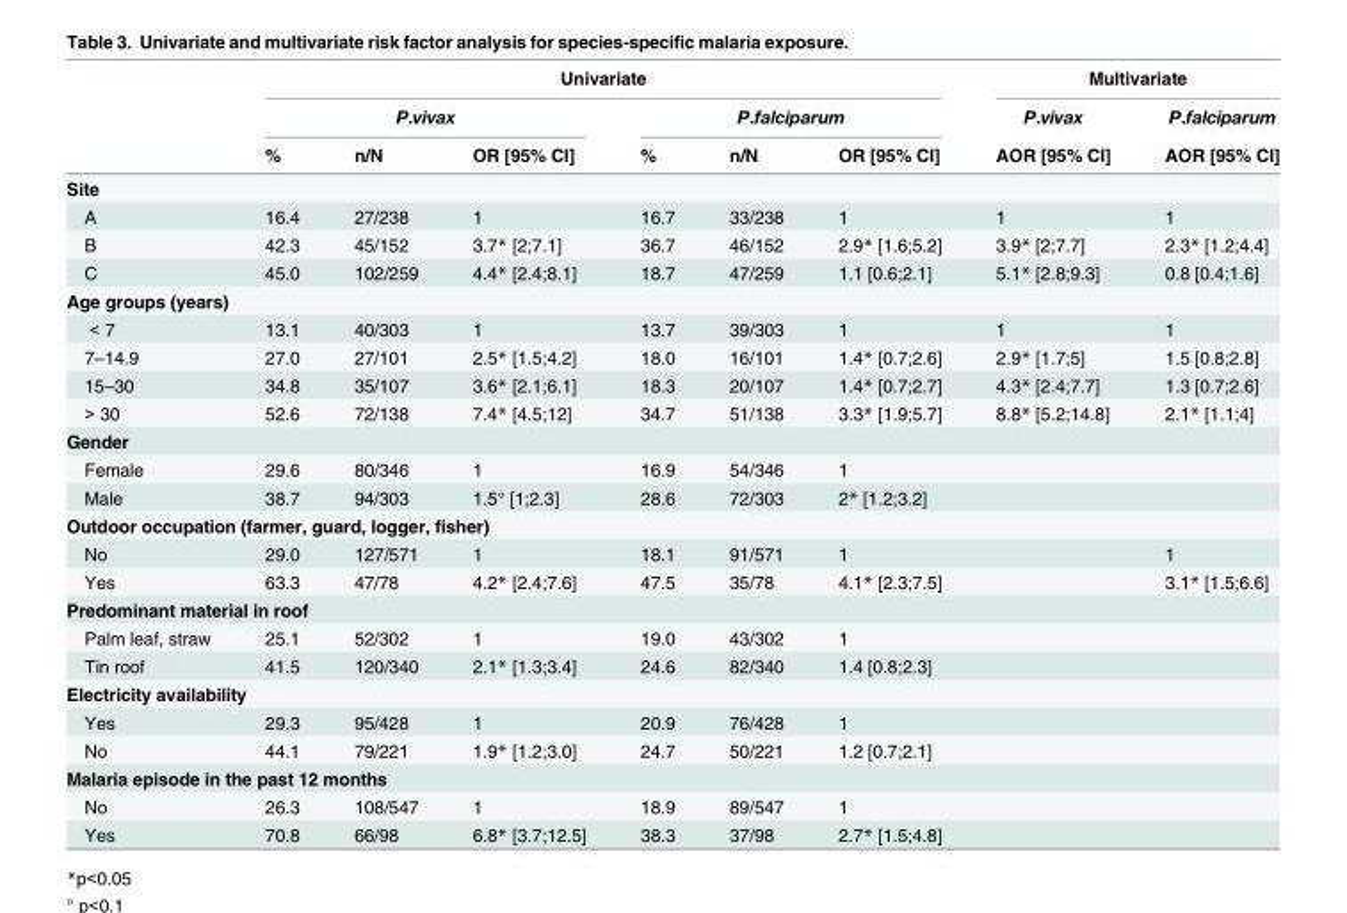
<table><thead><tr><td rowspan="3"></td><td colspan="6">Univariate</td><td colspan="2">Multivariate</td></tr><tr><td colspan="3">P.vivax</td><td colspan="3">P.falciparum</td><td rowspan="2">P.vivax AOR [95% CI]</td><td rowspan="2">P.falciparum AOR [95% CI]</td></tr><tr><td>%</td><td>n/N</td><td>OR [95% CI]</td><td>%</td><td>n/N</td><td>OR [95% CI]</td></tr></thead><tbody><tr><td colspan="9">Site</td></tr><tr><td>A</td><td>16.4</td><td>27/238</td><td>1</td><td>16.7</td><td>33/238</td><td>1</td><td>1</td><td>1</td></tr><tr><td>B</td><td>42.3</td><td>45/152</td><td>3.7* [2;7.1]</td><td>36.7</td><td>46/152</td><td>2.9* [1.6;5.2]</td><td>3.9* [2;7.7]</td><td>2.3* [1.2;4.4]</td></tr><tr><td>C</td><td>45.0</td><td>102/259</td><td>4.4* [2.4;8.1]</td><td>18.7</td><td>47/259</td><td>1.1 [0.6;2.1]</td><td>5.1* [2.8;9.3]</td><td>0.8 [0.4;1.6]</td></tr><tr><td colspan="9">Age groups (years)</td></tr><tr><td>&lt; 7</td><td>13.1</td><td>40/303</td><td>1</td><td>13.7</td><td>39/303</td><td>1</td><td>1</td><td>1</td></tr><tr><td>7–14.9</td><td>27.0</td><td>27/101</td><td>2.5* [1.5;4.2]</td><td>18.0</td><td>16/101</td><td>1.4* [0.7;2.6]</td><td>2.9* [1.7;5]</td><td>1.5 [0.8;2.8]</td></tr><tr><td>15–30</td><td>34.8</td><td>35/107</td><td>3.6* [2.1;6.1]</td><td>18.3</td><td>20/107</td><td>1.4* [0.7;2.7]</td><td>4.3* [2.4;7.7]</td><td>1.3 [0.7;2.6]</td></tr><tr><td>&gt; 30</td><td>52.6</td><td>72/138</td><td>7.4* [4.5;12]</td><td>34.7</td><td>51/138</td><td>3.3* [1.9;5.7]</td><td>8.8* [5.2;14.8]</td><td>2.1* [1.1;4]</td></tr><tr><td colspan="9">Gender</td></tr><tr><td>Female</td><td>29.6</td><td>80/346</td><td>1</td><td>16.9</td><td>54/346</td><td>1</td><td></td><td></td></tr><tr><td>Male</td><td>38.7</td><td>94/303</td><td>1.5° [1;2.3]</td><td>28.6</td><td>72/303</td><td>2* [1.2;3.2]</td><td></td><td></td></tr><tr><td colspan="9">Outdoor occupation (farmer, guard, logger, fisher)</td></tr><tr><td>No</td><td>29.0</td><td>127/571</td><td>1</td><td>18.1</td><td>91/571</td><td>1</td><td></td><td>1</td></tr><tr><td>Yes</td><td>63.3</td><td>47/78</td><td>4.2* [2.4;7.6]</td><td>47.5</td><td>35/78</td><td>4.1* [2.3;7.5]</td><td></td><td>3.1* [1.5;6.6]</td></tr><tr><td colspan="9">Predominant material in roof</td></tr><tr><td>Palm leaf, straw</td><td>25.1</td><td>52/302</td><td>1</td><td>19.0</td><td>43/302</td><td>1</td><td></td><td></td></tr><tr><td>Tin roof</td><td>41.5</td><td>120/340</td><td>2.1* [1.3;3.4]</td><td>24.6</td><td>82/340</td><td>1.4 [0.8;2.3]</td><td></td><td></td></tr><tr><td colspan="9">Electricity availability</td></tr><tr><td>Yes</td><td>29.3</td><td>95/428</td><td>1</td><td>20.9</td><td>76/428</td><td>1</td><td></td><td></td></tr><tr><td>No</td><td>44.1</td><td>79/221</td><td>1.9* [1.2;3.0]</td><td>24.7</td><td>50/221</td><td>1.2 [0.7;2.1]</td><td></td><td></td></tr><tr><td colspan="9">Malaria episode in the past 12 months</td></tr><tr><td>No</td><td>26.3</td><td>108/547</td><td>1</td><td>18.9</td><td>89/547</td><td>1</td><td></td><td></td></tr><tr><td>Yes</td><td>70.8</td><td>66/98</td><td>6.8* [3.7;12.5]</td><td>38.3</td><td>37/98</td><td>2.7* [1.5;4.8]</td><td></td><td></td></tr></tbody></table>